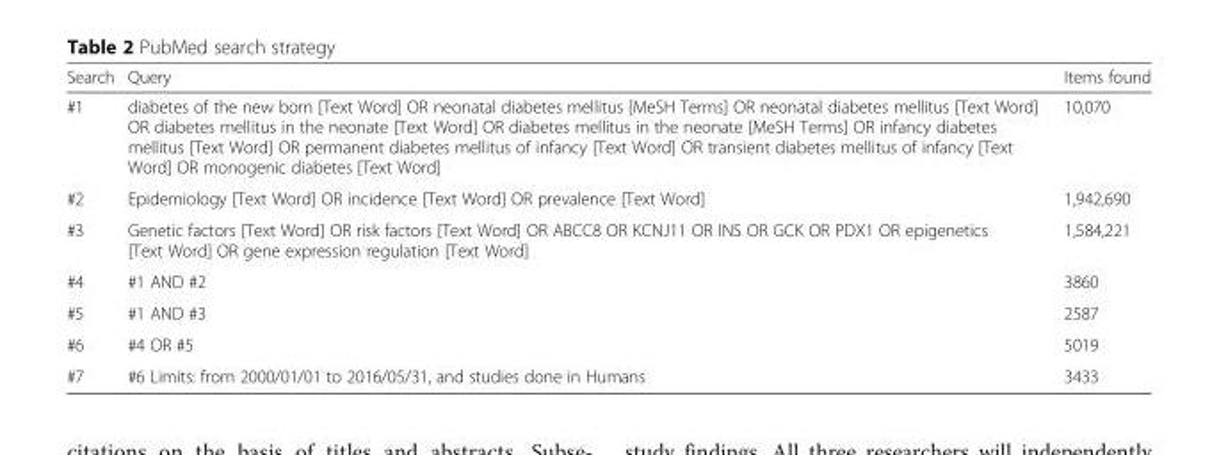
<table><thead><tr><td>Search</td><td>Query</td><td>Items found</td></tr></thead><tbody><tr><td>#1</td><td>diabetes of the new born [Text Word] OR neonatal diabetes mellitus [MeSH Terms] OR neonatal diabetes mellitus [Text Word] OR diabetes mellitus in the neonate [Text Word] OR diabetes mellitus in the neonate [MeSH Terms] OR infancy diabetes mellitus [Text Word] OR permanent diabetes mellitus of infancy [Text Word] OR transient diabetes mellitus of infancy [Text Word] OR monogenic diabetes [Text Word]</td><td>10,070</td></tr><tr><td>#2</td><td>Epidemiology [Text Word] OR incidence [Text Word] OR prevalence [Text Word]</td><td>1,942,690</td></tr><tr><td>#3</td><td>Genetic factors [Text Word] OR risk factors [Text Word] OR ABCC8 OR KCNJ11 OR INS OR GCK OR PDX1 OR epigenetics [Text Word] OR gene expression regulation [Text Word]</td><td>1,584,221</td></tr><tr><td>#4</td><td>#1 AND #2</td><td>3860</td></tr><tr><td>#5</td><td>#1 AND #3</td><td>2587</td></tr><tr><td>#6</td><td>#4 OR #5</td><td>5019</td></tr><tr><td>#7</td><td>#6 Limits: from 2000/01/01 to 2016/05/31, and studies done in Humans</td><td>3433</td></tr></tbody></table>